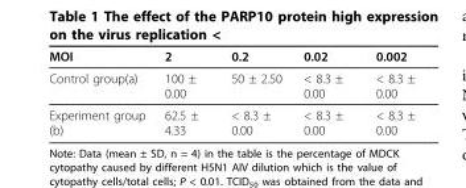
<table><thead><tr><td>MOI</td><td>2</td><td>0.2</td><td>0.02</td><td>0.002</td></tr></thead><tbody><tr><td>Control group(a)</td><td>100 ± 0.00</td><td>50 ± 2.50</td><td>&lt; 8.3 ± 0.00</td><td>&lt; 8.3 ± 0.00</td></tr><tr><td>Experiment group (b)</td><td>62.5 ± 4.33</td><td>&lt; 8.3 ± 0.00</td><td>&lt; 8.3 ± 0.00</td><td>&lt; 8.3 ± 0.00</td></tr></tbody></table>